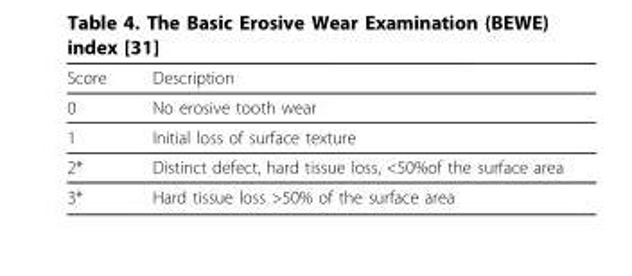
<table><thead><tr><td>Score</td><td>Description</td></tr></thead><tbody><tr><td>0</td><td>No erosive tooth wear</td></tr><tr><td>1</td><td>Initial loss of surface texture</td></tr><tr><td>2*</td><td>Distinct defect, hard tissue loss, &lt;50%of the surface area</td></tr><tr><td>3*</td><td>Hard tissue loss &gt;50% of the surface area</td></tr></tbody></table>